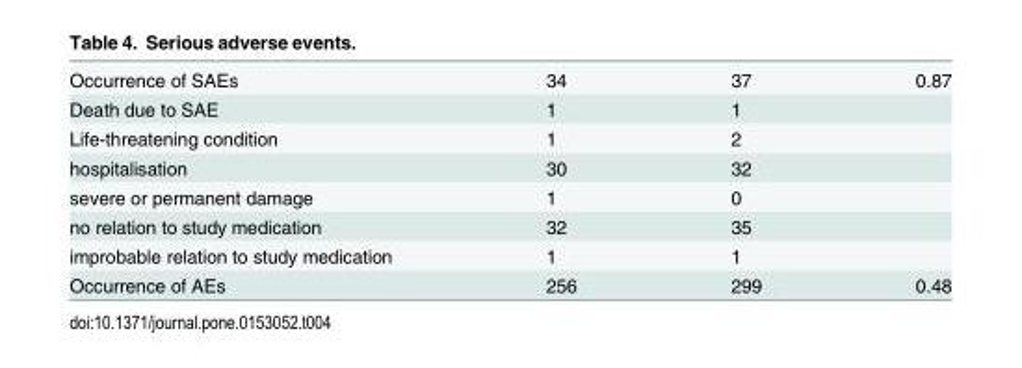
<table><tbody><tr><td>Occurrence of SAEs</td><td>34</td><td>37</td><td>0.87</td></tr><tr><td>Death due to SAE</td><td>1</td><td>1</td><td></td></tr><tr><td>Life-threatening condition</td><td>1</td><td>2</td><td></td></tr><tr><td>hospitalisation</td><td>30</td><td>32</td><td></td></tr><tr><td>severe or permanent damage</td><td>1</td><td>0</td><td></td></tr><tr><td>no relation to study medication</td><td>32</td><td>35</td><td></td></tr><tr><td>improbable relation to study medication</td><td>1</td><td>1</td><td></td></tr><tr><td>Occurrence of AEs</td><td>256</td><td>299</td><td>0.48</td></tr></tbody></table>